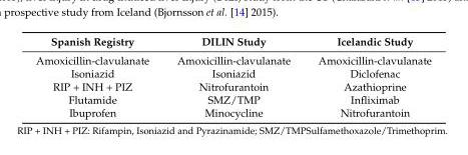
<table><thead><tr><td>Spanish Registry</td><td>DILIN Study</td><td>Icelandic Study</td></tr></thead><tbody><tr><td>Amoxicillin-clavulanate</td><td>Amoxicillin-clavulanate</td><td>Amoxicillin-clavulanate</td></tr><tr><td>Isoniazid</td><td>Isoniazid</td><td>Diclofenac</td></tr><tr><td>RIP + INH + PIZ</td><td>Nitrofurantoin</td><td>Azathioprine</td></tr><tr><td>Flutamide</td><td>SMZ/TMP</td><td>Infliximab</td></tr><tr><td>Ibuprofen</td><td>Minocycline</td><td>Nitrofurantoin</td></tr></tbody></table>